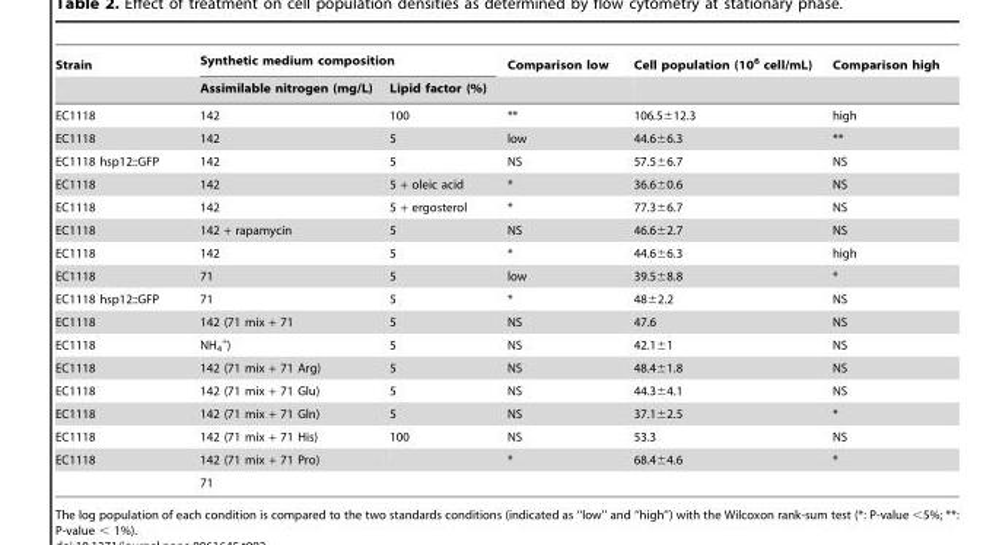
<table><thead><tr><td rowspan="2">Strain</td><td colspan="2">Synthetic medium composition</td><td rowspan="2">Comparison low</td><td rowspan="2">Cell population (10<sup>6</sup> cell/mL)</td><td rowspan="2">Comparison high</td></tr><tr><td>Assimilable nitrogen (mg/L)</td><td>Lipid factor (%)</td></tr></thead><tbody><tr><td>EC1118</td><td>142</td><td>100</td><td>**</td><td>106.5±12.3</td><td>high</td></tr><tr><td>EC1118</td><td>142</td><td>5</td><td>low</td><td>44.6±6.3</td><td>**</td></tr><tr><td>EC1118 hsp12::GFP</td><td>142</td><td>5</td><td>NS</td><td>57.5±6.7</td><td>NS</td></tr><tr><td>EC1118</td><td>142</td><td>5 + oleic acid</td><td>*</td><td>36.6±0.6</td><td>NS</td></tr><tr><td>EC1118</td><td>142</td><td>5 + ergosterol</td><td>*</td><td>77.3±6.7</td><td>NS</td></tr><tr><td>EC1118</td><td>142 + rapamycin</td><td>5</td><td>NS</td><td>46.6±2.7</td><td>NS</td></tr><tr><td>EC1118</td><td>142</td><td>5</td><td>*</td><td>44.6±6.3</td><td>high</td></tr><tr><td>EC1118</td><td>71</td><td>5</td><td>low</td><td>39.5±8.8</td><td>*</td></tr><tr><td>EC1118 hsp12::GFP</td><td>71</td><td>5</td><td>*</td><td>48±2.2</td><td>NS</td></tr><tr><td>EC1118</td><td>142 (71 mix + 71</td><td>5</td><td>NS</td><td>47.6</td><td>NS</td></tr><tr><td>EC1118</td><td>NH<sub>4</sub> <sup>+</sup>)</td><td>5</td><td>NS</td><td>42.1±1</td><td>NS</td></tr><tr><td>EC1118</td><td>142 (71 mix + 71 Arg)</td><td>5</td><td>NS</td><td>48.4±1.8</td><td>NS</td></tr><tr><td>EC1118</td><td>142 (71 mix + 71 Glu)</td><td>5</td><td>NS</td><td>44.3±4.1</td><td>NS</td></tr><tr><td>EC1118</td><td>142 (71 mix + 71 Gln)</td><td>5</td><td>NS</td><td>37.1±2.5</td><td>*</td></tr><tr><td>EC1118</td><td>142 (71 mix + 71 His)</td><td>100</td><td>NS</td><td>53.3</td><td>NS</td></tr><tr><td rowspan="2">EC1118</td><td>142 (71 mix + 71 Pro)</td><td></td><td>*</td><td>68.4±4.6</td><td>*</td></tr><tr><td>71</td><td></td><td></td><td></td><td></td></tr></tbody></table>